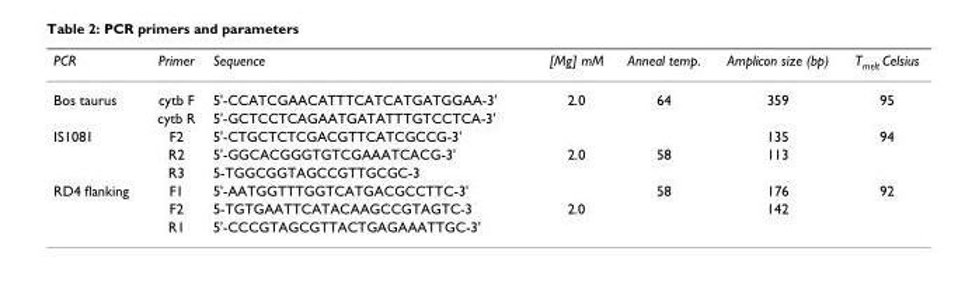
<table><thead><tr><td>PCR</td><td>Primer</td><td>Sequence</td><td>[Mg] mM</td><td>Anneal temp.</td><td>Amplicon size (bp)</td><td>T<sub>melt</sub> Celsius</td></tr></thead><tbody><tr><td rowspan="2">Bos taurus</td><td>cytb F</td><td>5&#x27;-CCATCGAACATTTCATCATGATGGAA-3&#x27;</td><td>2.0</td><td>64</td><td>359</td><td>95</td></tr><tr><td>cytb R</td><td>5&#x27;-GCTCCTCAGAATGATATTTGTCCTCA-3&#x27;</td><td></td><td></td><td></td><td></td></tr><tr><td rowspan="3">IS1081</td><td>F2</td><td>5&#x27;-CTGCTCTCGACGTTCATCGCCG-3&#x27;</td><td></td><td></td><td>135</td><td>94</td></tr><tr><td>R2</td><td>5&#x27;-GGCACGGGTGTCGAAATCACG-3&#x27;</td><td>2.0</td><td>58</td><td>113</td><td></td></tr><tr><td>R3</td><td>5-TGGCGGTAGCCGTTGCGC-3</td><td></td><td></td><td></td><td></td></tr><tr><td rowspan="3">RD4 flanking</td><td>F1</td><td>5&#x27;-AATGGTTTGGTCATGACGCCTTC-3&#x27;</td><td></td><td>58</td><td>176</td><td>92</td></tr><tr><td>F2</td><td>5-TGTGAATTCATACAAGCCGTAGTC-3</td><td>2.0</td><td></td><td>142</td><td></td></tr><tr><td>R1</td><td>5&#x27;-CCCGTAGCGTTACTGAGAAATTGC-3&#x27;</td><td></td><td></td><td></td><td></td></tr></tbody></table>